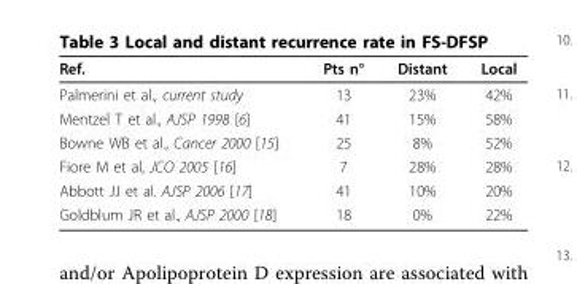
<table><thead><tr><td>Ref.</td><td>Pts n°</td><td>Distant</td><td>Local</td></tr></thead><tbody><tr><td>Palmerini et al., current study</td><td>13</td><td>23%</td><td>42%</td></tr><tr><td>Mentzel T et al., AJSP 1998 [6]</td><td>41</td><td>15%</td><td>58%</td></tr><tr><td>Bowne WB et al., Cancer 2000 [15]</td><td>25</td><td>8%</td><td>52%</td></tr><tr><td>Fiore M et al, JCO 2005 [16]</td><td>7</td><td>28%</td><td>28%</td></tr><tr><td>Abbott JJ et al. AJSP 2006 [17]</td><td>41</td><td>10%</td><td>20%</td></tr><tr><td>Goldblum JR et al., AJSP 2000 [18]</td><td>18</td><td>0%</td><td>22%</td></tr></tbody></table>